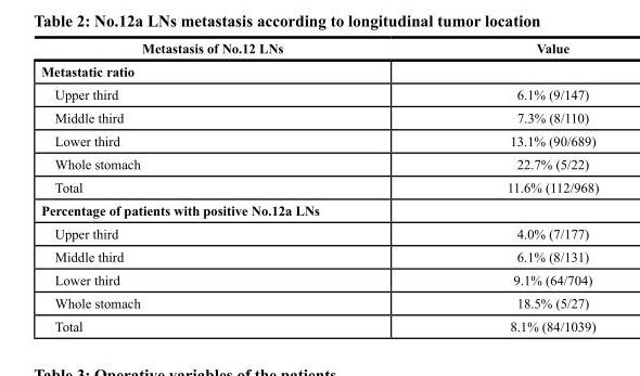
<table><thead><tr><td>Metastasis of No.12 LNs</td><td>Value</td></tr></thead><tbody><tr><td colspan="2">Metastatic ratio</td></tr><tr><td>Upper third</td><td>6.1% (9/147)</td></tr><tr><td>Middle third</td><td>7.3% (8/110)</td></tr><tr><td>Lower third</td><td>13.1% (90/689)</td></tr><tr><td>Whole stomach</td><td>22.7% (5/22)</td></tr><tr><td>Total</td><td>11.6% (112/968)</td></tr><tr><td colspan="2">Percentage of patients with positive No.12a LNs</td></tr><tr><td>Upper third</td><td>4.0% (7/177)</td></tr><tr><td>Middle third</td><td>6.1% (8/131)</td></tr><tr><td>Lower third</td><td>9.1% (64/704)</td></tr><tr><td>Whole stomach</td><td>18.5% (5/27)</td></tr><tr><td>Total</td><td>8.1% (84/1039)</td></tr></tbody></table>